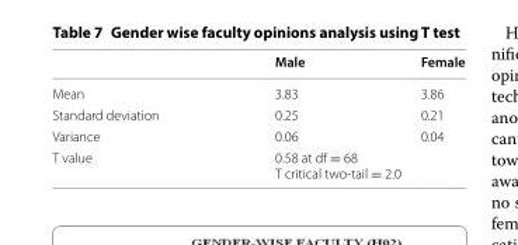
<table><thead><tr><td></td><td>Male</td><td>Female</td></tr></thead><tbody><tr><td>Mean</td><td>3.83</td><td>3.86</td></tr><tr><td>Standard deviation</td><td>0.25</td><td>0.21</td></tr><tr><td>Variance</td><td>0.06</td><td>0.04</td></tr><tr><td>T value</td><td colspan="2">0.58 at df = 68 T critical two-tail = 2.0</td></tr></tbody></table>